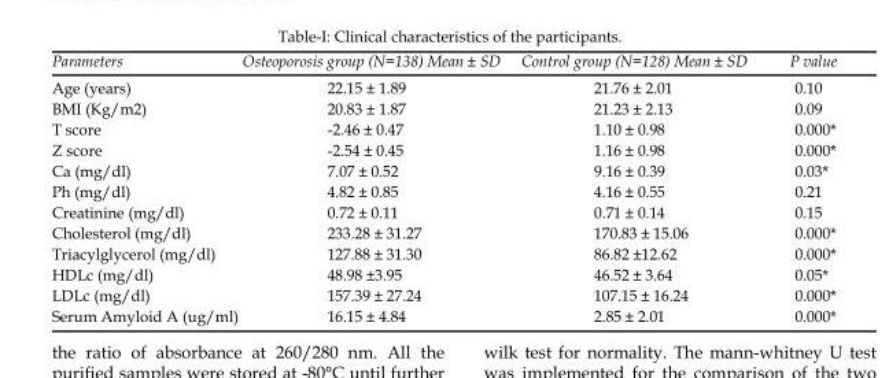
<table><thead><tr><td>Parameters</td><td>Osteoporosis group (N=138) Mean ± SD</td><td>Control group (N=128) Mean ± SD</td><td>P value</td></tr></thead><tbody><tr><td>Age (years)</td><td>22.15 ± 1.89</td><td>21.76 ± 2.01</td><td>0.10</td></tr><tr><td>BMI (Kg/m<sup>2)</sup></td><td>20.83 ± 1.87</td><td>21.23 ± 2.13</td><td>0.09</td></tr><tr><td>T score</td><td>-2.46 ± 0.47</td><td>1.10 ± 0.98</td><td>0.000*</td></tr><tr><td>Z score</td><td>-2.54 ± 0.45</td><td>1.16 ± 0.98</td><td>0.000*</td></tr><tr><td>Ca (mg/dl)</td><td>7.07 ± 0.52</td><td>9.16 ± 0.39</td><td>0.03*</td></tr><tr><td>Ph (mg/dl)</td><td>4.82 ± 0.85</td><td>4.16 ± 0.55</td><td>0.21</td></tr><tr><td>Creatinine (mg/dl)</td><td>0.72 ± 0.11</td><td>0.71 ± 0.14</td><td>0.15</td></tr><tr><td>Cholesterol (mg/dl)</td><td>233.28 ± 31.27</td><td>170.83 ± 15.06</td><td>0.000*</td></tr><tr><td>Triacylglycerol (mg/dl)</td><td>127.88 ± 31.30</td><td>86.82 ±12.62</td><td>0.000*</td></tr><tr><td>HDLc (mg/dl)</td><td>48.98 ±3.95</td><td>46.52 ± 3.64</td><td>0.05*</td></tr><tr><td>LDLc (mg/dl)</td><td>157.39 ± 27.24</td><td>107.15 ± 16.24</td><td>0.000*</td></tr><tr><td>Serum Amyloid A (ug/ml)</td><td>16.15 ± 4.84</td><td>2.85 ± 2.01</td><td>0.000*</td></tr></tbody></table>